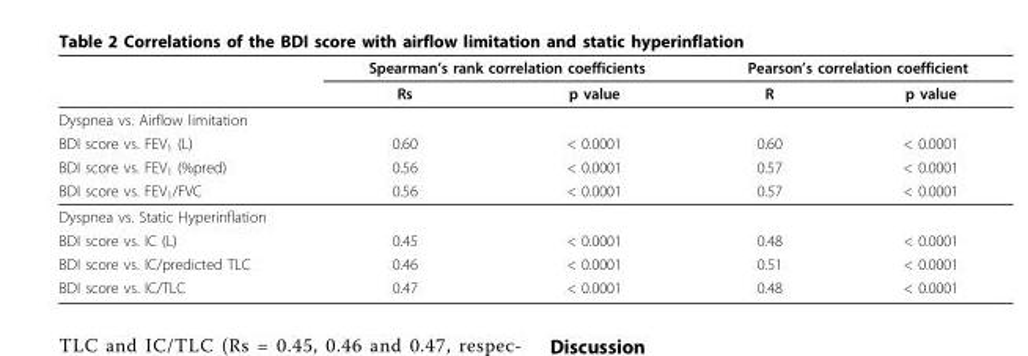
<table><thead><tr><td rowspan="2"></td><td colspan="2">Spearman’s rank correlation coefficients</td><td colspan="2">Pearson’s correlation coefficient</td></tr><tr><td>Rs</td><td>p value</td><td>R</td><td>p value</td></tr></thead><tbody><tr><td colspan="5">Dyspnea vs. Airflow limitation</td></tr><tr><td>BDI score vs. FEV1 (L)</td><td>0.60</td><td>&lt; 0.0001</td><td>0.60</td><td>&lt; 0.0001</td></tr><tr><td>BDI score vs. FEV1 (%pred)</td><td>0.56</td><td>&lt; 0.0001</td><td>0.57</td><td>&lt; 0.0001</td></tr><tr><td>BDI score vs. FEV1/FVC</td><td>0.56</td><td>&lt; 0.0001</td><td>0.57</td><td>&lt; 0.0001</td></tr><tr><td colspan="5">Dyspnea vs. Static Hyperinflation</td></tr><tr><td>BDI score vs. IC (L)</td><td>0.45</td><td>&lt; 0.0001</td><td>0.48</td><td>&lt; 0.0001</td></tr><tr><td>BDI score vs. IC/predicted TLC</td><td>0.46</td><td>&lt; 0.0001</td><td>0.51</td><td>&lt; 0.0001</td></tr><tr><td>BDI score vs. IC/TLC</td><td>0.47</td><td>&lt; 0.0001</td><td>0.48</td><td>&lt; 0.0001</td></tr></tbody></table>